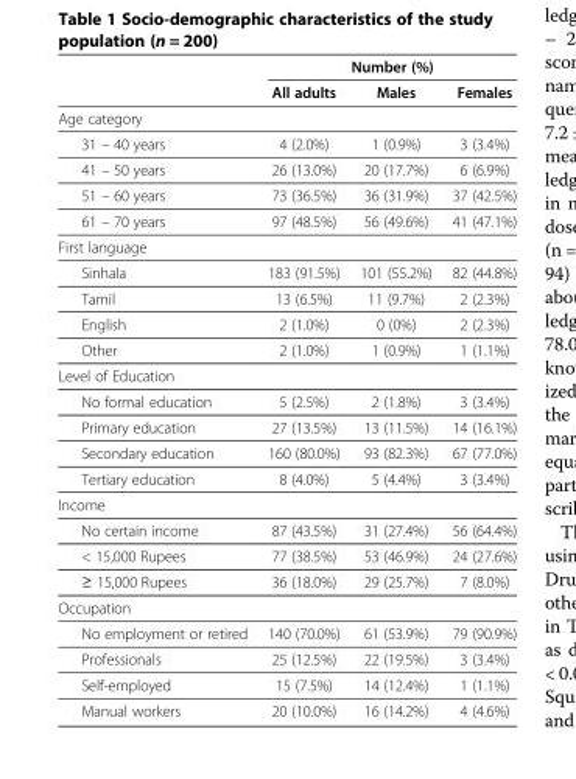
<table><thead><tr><td rowspan="2"></td><td colspan="3">Number (%)</td></tr><tr><td>All adults</td><td>Males</td><td>Females</td></tr></thead><tbody><tr><td colspan="4">Age category</td></tr><tr><td>31 – 40 years</td><td>4 (2.0%)</td><td>1 (0.9%)</td><td>3 (3.4%)</td></tr><tr><td>41 – 50 years</td><td>26 (13.0%)</td><td>20 (17.7%)</td><td>6 (6.9%)</td></tr><tr><td>51 – 60 years</td><td>73 (36.5%)</td><td>36 (31.9%)</td><td>37 (42.5%)</td></tr><tr><td>61 – 70 years</td><td>97 (48.5%)</td><td>56 (49.6%)</td><td>41 (47.1%)</td></tr><tr><td colspan="4">First language</td></tr><tr><td>Sinhala</td><td>183 (91.5%)</td><td>101 (55.2%)</td><td>82 (44.8%)</td></tr><tr><td>Tamil</td><td>13 (6.5%)</td><td>11 (9.7%)</td><td>2 (2.3%)</td></tr><tr><td>English</td><td>2 (1.0%)</td><td>0 (0%)</td><td>2 (2.3%)</td></tr><tr><td>Other</td><td>2 (1.0%)</td><td>1 (0.9%)</td><td>1 (1.1%)</td></tr><tr><td colspan="4">Level of Education</td></tr><tr><td>No formal education</td><td>5 (2.5%)</td><td>2 (1.8%)</td><td>3 (3.4%)</td></tr><tr><td>Primary education</td><td>27 (13.5%)</td><td>13 (11.5%)</td><td>14 (16.1%)</td></tr><tr><td>Secondary education</td><td>160 (80.0%)</td><td>93 (82.3%)</td><td>67 (77.0%)</td></tr><tr><td>Tertiary education</td><td>8 (4.0%)</td><td>5 (4.4%)</td><td>3 (3.4%)</td></tr><tr><td colspan="4">Income</td></tr><tr><td>No certain income</td><td>87 (43.5%)</td><td>31 (27.4%)</td><td>56 (64.4%)</td></tr><tr><td>&lt; 15,000 Rupees</td><td>77 (38.5%)</td><td>53 (46.9%)</td><td>24 (27.6%)</td></tr><tr><td>≥ 15,000 Rupees</td><td>36 (18.0%)</td><td>29 (25.7%)</td><td>7 (8.0%)</td></tr><tr><td colspan="4">Occupation</td></tr><tr><td>No employment or retired</td><td>140 (70.0%)</td><td>61 (53.9%)</td><td>79 (90.9%)</td></tr><tr><td>Professionals</td><td>25 (12.5%)</td><td>22 (19.5%)</td><td>3 (3.4%)</td></tr><tr><td>Self-employed</td><td>15 (7.5%)</td><td>14 (12.4%)</td><td>1 (1.1%)</td></tr><tr><td>Manual workers</td><td>20 (10.0%)</td><td>16 (14.2%)</td><td>4 (4.6%)</td></tr></tbody></table>